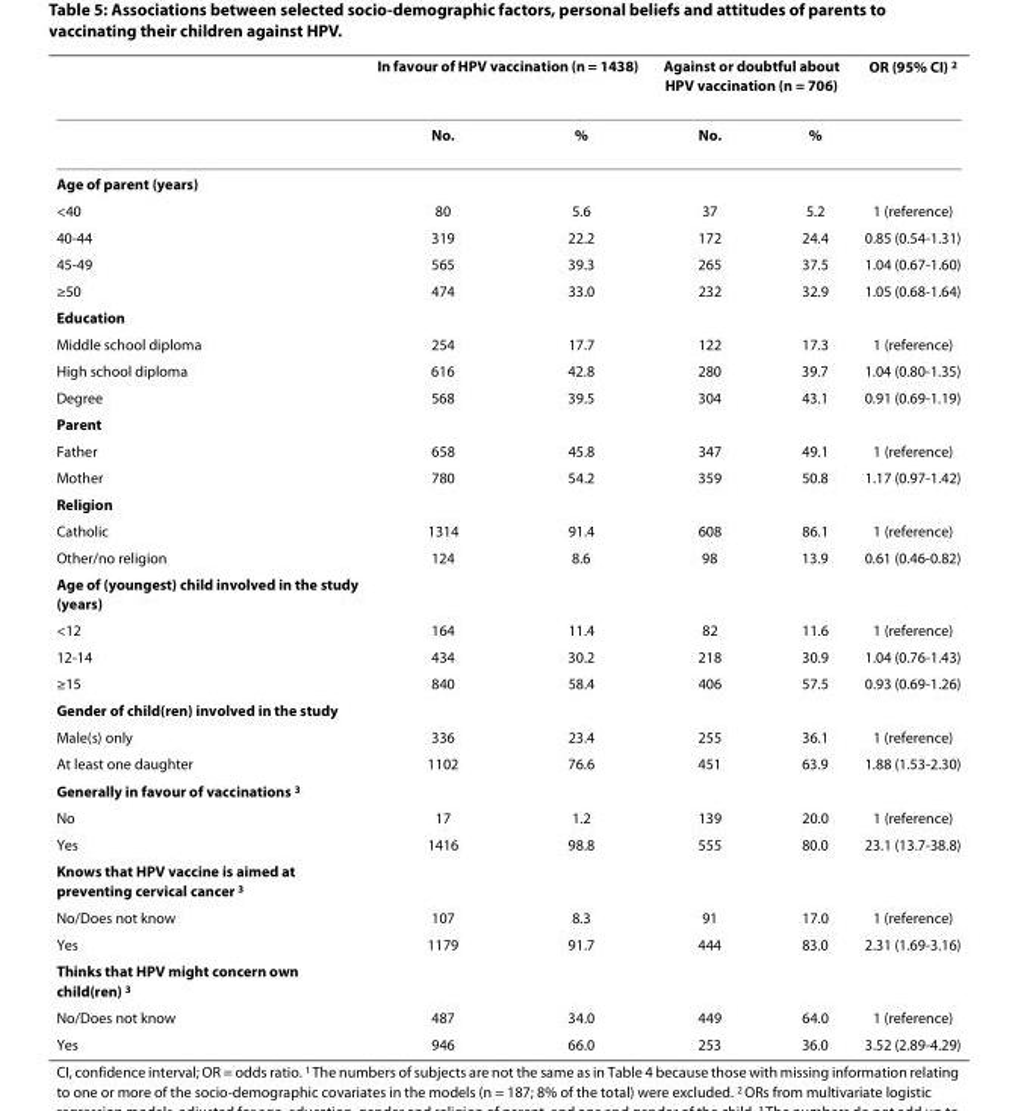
<table><thead><tr><td rowspan="2"></td><td colspan="2">In favour of HPV vaccination (n = 1438)</td><td colspan="2">Against or doubtful about HPV vaccination (n = 706)</td><td rowspan="2">OR (95% CI) <sup>2</sup></td></tr><tr><td>No.</td><td>%</td><td>No.</td><td>%</td></tr></thead><tbody><tr><td colspan="6">Age of parent (years)</td></tr><tr><td>&lt;40</td><td>80</td><td>5.6</td><td>37</td><td>5.2</td><td>1 (reference)</td></tr><tr><td>40-44</td><td>319</td><td>22.2</td><td>172</td><td>24.4</td><td>0.85 (0.54-1.31)</td></tr><tr><td>45-49</td><td>565</td><td>39.3</td><td>265</td><td>37.5</td><td>1.04 (0.67-1.60)</td></tr><tr><td>≥50</td><td>474</td><td>33.0</td><td>232</td><td>32.9</td><td>1.05 (0.68-1.64)</td></tr><tr><td colspan="6">Education</td></tr><tr><td>Middle school diploma</td><td>254</td><td>17.7</td><td>122</td><td>17.3</td><td>1 (reference)</td></tr><tr><td>High school diploma</td><td>616</td><td>42.8</td><td>280</td><td>39.7</td><td>1.04 (0.80-1.35)</td></tr><tr><td>Degree</td><td>568</td><td>39.5</td><td>304</td><td>43.1</td><td>0.91 (0.69-1.19)</td></tr><tr><td colspan="6">Parent</td></tr><tr><td>Father</td><td>658</td><td>45.8</td><td>347</td><td>49.1</td><td>1 (reference)</td></tr><tr><td>Mother</td><td>780</td><td>54.2</td><td>359</td><td>50.8</td><td>1.17 (0.97-1.42)</td></tr><tr><td colspan="6">Religion</td></tr><tr><td>Catholic</td><td>1314</td><td>91.4</td><td>608</td><td>86.1</td><td>1 (reference)</td></tr><tr><td>Other/no religion</td><td>124</td><td>8.6</td><td>98</td><td>13.9</td><td>0.61 (0.46-0.82)</td></tr><tr><td colspan="6">Age of (youngest) child involved in the study (years)</td></tr><tr><td>&lt;12</td><td>164</td><td>11.4</td><td>82</td><td>11.6</td><td>1 (reference)</td></tr><tr><td>12-14</td><td>434</td><td>30.2</td><td>218</td><td>30.9</td><td>1.04 (0.76-1.43)</td></tr><tr><td>≥15</td><td>840</td><td>58.4</td><td>406</td><td>57.5</td><td>0.93 (0.69-1.26)</td></tr><tr><td colspan="6">Gender of child(ren) involved in the study</td></tr><tr><td>Male(s) only</td><td>336</td><td>23.4</td><td>255</td><td>36.1</td><td>1 (reference)</td></tr><tr><td>At least one daughter</td><td>1102</td><td>76.6</td><td>451</td><td>63.9</td><td>1.88 (1.53-2.30)</td></tr><tr><td colspan="6">Generally in favour of vaccinations <sup>3</sup></td></tr><tr><td>No</td><td>17</td><td>1.2</td><td>139</td><td>20.0</td><td>1 (reference)</td></tr><tr><td>Yes</td><td>1416</td><td>98.8</td><td>555</td><td>80.0</td><td>23.1 (13.7-38.8)</td></tr><tr><td colspan="6">Knows that HPV vaccine is aimed at preventing cervical cancer <sup>3</sup></td></tr><tr><td>No/Does not know</td><td>107</td><td>8.3</td><td>91</td><td>17.0</td><td>1 (reference)</td></tr><tr><td>Yes</td><td>1179</td><td>91.7</td><td>444</td><td>83.0</td><td>2.31 (1.69-3.16)</td></tr><tr><td colspan="6">Thinks that HPV might concern own child(ren) <sup>3</sup></td></tr><tr><td>No/Does not know</td><td>487</td><td>34.0</td><td>449</td><td>64.0</td><td>1 (reference)</td></tr><tr><td>Yes</td><td>946</td><td>66.0</td><td>253</td><td>36.0</td><td>3.52 (2.89-4.29)</td></tr></tbody></table>